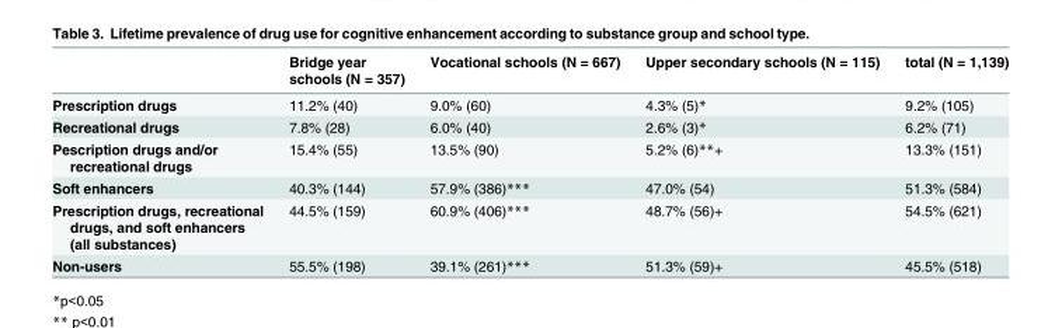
<table><thead><tr><td></td><td>Bridge year schools (N = 357)</td><td>Vocational schools (N = 667)</td><td>Upper secondary schools (N = 115)</td><td>total (N = 1,139)</td></tr></thead><tbody><tr><td>Prescription drugs</td><td>11.2% (40)</td><td>9.0% (60)</td><td>4.3% (5)*</td><td>9.2% (105)</td></tr><tr><td>Recreational drugs</td><td>7.8% (28)</td><td>6.0% (40)</td><td>2.6% (3)*</td><td>6.2% (71)</td></tr><tr><td>Pescription drugs and/or recreational drugs</td><td>15.4% (55)</td><td>13.5% (90)</td><td>5.2% (6)**+</td><td>13.3% (151)</td></tr><tr><td>Soft enhancers</td><td>40.3% (144)</td><td>57.9% (386)***</td><td>47.0% (54)</td><td>51.3% (584)</td></tr><tr><td>Prescription drugs, recreational drugs, and soft enhancers (all substances)</td><td>44.5% (159)</td><td>60.9% (406)***</td><td>48.7% (56)+</td><td>54.5% (621)</td></tr><tr><td>Non-users</td><td>55.5% (198)</td><td>39.1% (261)***</td><td>51.3% (59)+</td><td>45.5% (518)</td></tr></tbody></table>